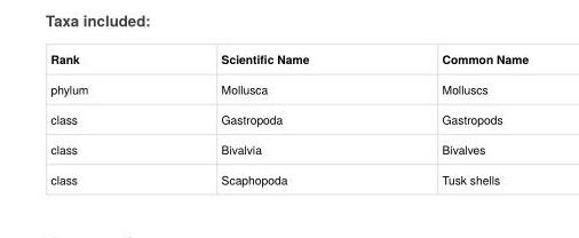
<table><thead><tr><td>Rank</td><td>Scientific Name</td><td>Common Name</td></tr></thead><tbody><tr><td>phylum</td><td>Mollusca</td><td>Molluscs</td></tr><tr><td>class</td><td>Gastropoda</td><td>Gastropods</td></tr><tr><td>class</td><td>Bivalvia</td><td>Bivalves</td></tr><tr><td>class</td><td>Scaphopoda</td><td>Tusk shells</td></tr></tbody></table>